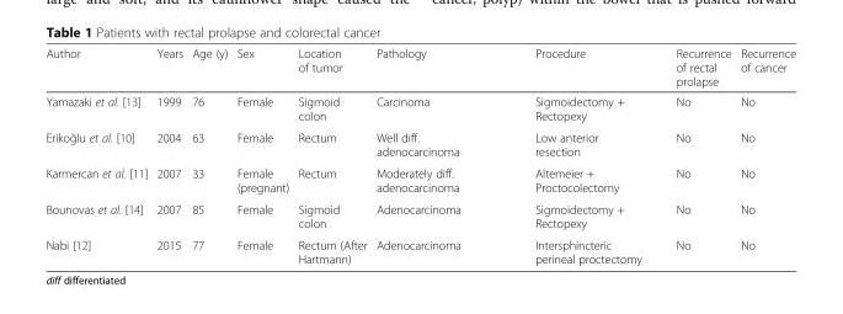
<table><thead><tr><td>Author</td><td>Years</td><td>Age (y)</td><td>Sex</td><td>Location of tumor</td><td>Pathology</td><td>Procedure</td><td>Recurrence of rectal prolapse</td><td>Recurrence of cancer</td></tr></thead><tbody><tr><td>Yamazaki et al. [13]</td><td>1999</td><td>76</td><td>Female</td><td>Sigmoid colon</td><td>Carcinoma</td><td>Sigmoidectomy + Rectopexy</td><td>No</td><td>No</td></tr><tr><td>Erikoğlu et al. [10]</td><td>2004</td><td>63</td><td>Female</td><td>Rectum</td><td>Well diff. adenocarcinoma</td><td>Low anterior resection</td><td>No</td><td>No</td></tr><tr><td>Karmercan et al. [11]</td><td>2007</td><td>33</td><td>Female (pregnant)</td><td>Rectum</td><td>Moderately diff. adenocarcinoma</td><td>Altemeier + Proctocolectomy</td><td>No</td><td>No</td></tr><tr><td>Bounovas et al. [14]</td><td>2007</td><td>85</td><td>Female</td><td>Sigmoid colon</td><td>Adenocarcinoma</td><td>Sigmoidectomy + Rectopexy</td><td>No</td><td>No</td></tr><tr><td>Nabi [12]</td><td>2015</td><td>77</td><td>Female</td><td>Rectum (After Hartmann)</td><td>Adenocarcinoma</td><td>Intersphincteric perineal proctectomy</td><td>No</td><td>No</td></tr></tbody></table>